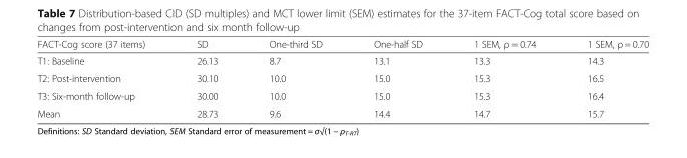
<table><thead><tr><td>FACT-Cog score (37 items)</td><td>SD</td><td>One-third SD</td><td>One-half SD</td><td>1 SEM, ρ = 0.74</td><td>1 SEM, ρ = 0.70</td></tr></thead><tbody><tr><td>T1: Baseline</td><td>26.13</td><td>8.7</td><td>13.1</td><td>13.3</td><td>14.3</td></tr><tr><td>T2: Post-intervention</td><td>30.10</td><td>10.0</td><td>15.0</td><td>15.3</td><td>16.5</td></tr><tr><td>T3: Six-month follow-up</td><td>30.00</td><td>10.0</td><td>15.0</td><td>15.3</td><td>16.4</td></tr><tr><td>Mean</td><td>28.73</td><td>9.6</td><td>14.4</td><td>14.7</td><td>15.7</td></tr></tbody></table>